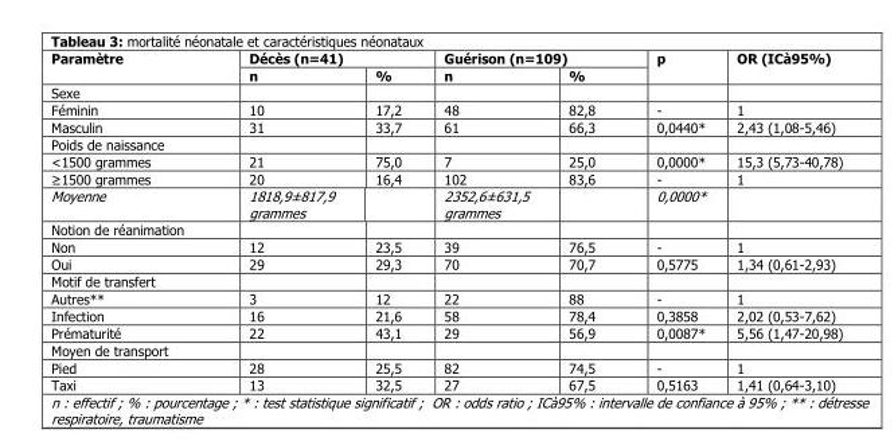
<table><thead><tr><td rowspan="2">Paramètre</td><td colspan="2">Décès (n=41)</td><td colspan="2">Guérison (n=109)</td><td rowspan="2">p</td><td rowspan="2">OR (ICà95%)</td></tr><tr><td>n</td><td>%</td><td>n</td><td>%</td></tr></thead><tbody><tr><td colspan="7">Sexe</td></tr><tr><td>Féminin</td><td>10</td><td>17,2</td><td>48</td><td>82,8</td><td>-</td><td>1</td></tr><tr><td>Masculin</td><td>31</td><td>33,7</td><td>61</td><td>66,3</td><td>0,0440*</td><td>2,43 (1,08-5,46)</td></tr><tr><td colspan="7">Poids de naissance</td></tr><tr><td>&lt;1500 grammes</td><td>21</td><td>75,0</td><td>7</td><td>25,0</td><td>0,0000*</td><td>15,3 (5,73-40,78)</td></tr><tr><td>≥1500 grammes</td><td>20</td><td>16,4</td><td>102</td><td>83,6</td><td>-</td><td>1</td></tr><tr><td>Moyenne</td><td>1818,9±817,9 grammes</td><td></td><td>2352,6±631,5 grammes</td><td></td><td>0,0000*</td><td></td></tr><tr><td colspan="7">Notion de réanimation</td></tr><tr><td>Non</td><td>12</td><td>23,5</td><td>39</td><td>76,5</td><td>-</td><td>1</td></tr><tr><td>Oui</td><td>29</td><td>29,3</td><td>70</td><td>70,7</td><td>0,5775</td><td>1,34 (0,61-2,93)</td></tr><tr><td colspan="7">Motif de transfert</td></tr><tr><td>Autres**</td><td>3</td><td>12</td><td>22</td><td>88</td><td>-</td><td>1</td></tr><tr><td>Infection</td><td>16</td><td>21,6</td><td>58</td><td>78,4</td><td>0,3858</td><td>2,02 (0,53-7,62)</td></tr><tr><td>Prématurité</td><td>22</td><td>43,1</td><td>29</td><td>56,9</td><td>0,0087*</td><td>5,56 (1,47-20,98)</td></tr><tr><td colspan="7">Moyen de transport</td></tr><tr><td>Pied</td><td>28</td><td>25,5</td><td>82</td><td>74,5</td><td>-</td><td>1</td></tr><tr><td>Taxi</td><td>13</td><td>32,5</td><td>27</td><td>67,5</td><td>0,5163</td><td>1,41 (0,64-3,10)</td></tr></tbody></table>